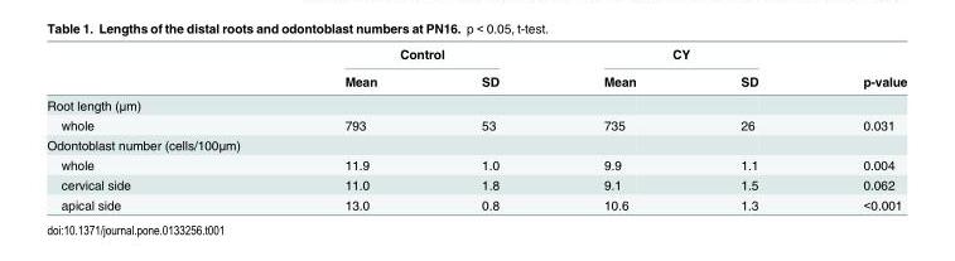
<table><thead><tr><td rowspan="2"></td><td colspan="2">Control</td><td colspan="2">CY</td><td rowspan="2">p-value</td></tr><tr><td>Mean</td><td>SD</td><td>Mean</td><td>SD</td></tr></thead><tbody><tr><td colspan="6">Root length (μm)</td></tr><tr><td>whole</td><td>793</td><td>53</td><td>735</td><td>26</td><td>0.031</td></tr><tr><td colspan="6">Odontoblast number (cells/100μm)</td></tr><tr><td>whole</td><td>11.9</td><td>1.0</td><td>9.9</td><td>1.1</td><td>0.004</td></tr><tr><td>cervical side</td><td>11.0</td><td>1.8</td><td>9.1</td><td>1.5</td><td>0.062</td></tr><tr><td>apical side</td><td>13.0</td><td>0.8</td><td>10.6</td><td>1.3</td><td>&lt;0.001</td></tr></tbody></table>